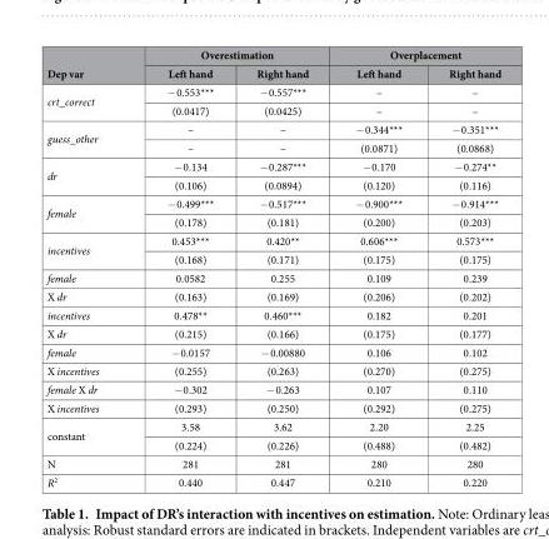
<table><thead><tr><td rowspan="2">Dep var</td><td colspan="2">Overestimation</td><td colspan="2">Overplacement</td></tr><tr><td>Left hand</td><td>Right hand</td><td>Left hand</td><td>Right hand</td></tr></thead><tbody><tr><td rowspan="2">crt_correct</td><td>− 0.553***</td><td>− 0.557***</td><td>–</td><td>–</td></tr><tr><td>(0.0417)</td><td>(0.0425)</td><td>–</td><td>–</td></tr><tr><td rowspan="2">guess_other</td><td>–</td><td>–</td><td>− 0.344***</td><td>− 0.351***</td></tr><tr><td>–</td><td>–</td><td>(0.0871)</td><td>(0.0868)</td></tr><tr><td rowspan="2">dr</td><td>− 0.134</td><td>− 0.287***</td><td>− 0.170</td><td>− 0.274**</td></tr><tr><td>(0.106)</td><td>(0.0894)</td><td>(0.120)</td><td>(0.116)</td></tr><tr><td rowspan="2">female</td><td>− 0.499***</td><td>− 0.517***</td><td>− 0.900***</td><td>− 0.914***</td></tr><tr><td>(0.178)</td><td>(0.181)</td><td>(0.200)</td><td>(0.203)</td></tr><tr><td rowspan="2">incentives</td><td>0.453***</td><td>0.420**</td><td>0.606***</td><td>0.573***</td></tr><tr><td>(0.168)</td><td>(0.171)</td><td>(0.175)</td><td>(0.175)</td></tr><tr><td>female</td><td>0.0582</td><td>0.255</td><td>0.109</td><td>0.239</td></tr><tr><td>X dr</td><td>(0.163)</td><td>(0.169)</td><td>(0.206)</td><td>(0.202)</td></tr><tr><td>incentives</td><td>0.478**</td><td>0.460***</td><td>0.182</td><td>0.201</td></tr><tr><td>X dr</td><td>(0.215)</td><td>(0.166)</td><td>(0.175)</td><td>(0.177)</td></tr><tr><td>female</td><td>− 0.0157</td><td>− 0.00880</td><td>0.106</td><td>0.102</td></tr><tr><td>X incentives</td><td>(0.255)</td><td>(0.263)</td><td>(0.270)</td><td>(0.275)</td></tr><tr><td>female X dr</td><td>− 0.302</td><td>− 0.263</td><td>0.107</td><td>0.110</td></tr><tr><td>X incentives</td><td>(0.293)</td><td>(0.250)</td><td>(0.292)</td><td>(0.275)</td></tr><tr><td rowspan="2">constant</td><td>3.58</td><td>3.62</td><td>2.20</td><td>2.25</td></tr><tr><td>(0.224)</td><td>(0.226)</td><td>(0.488)</td><td>(0.482)</td></tr><tr><td>N</td><td>281</td><td>281</td><td>280</td><td>280</td></tr><tr><td>R<sup>2</sup></td><td>0.440</td><td>0.447</td><td>0.210</td><td>0.220</td></tr></tbody></table>